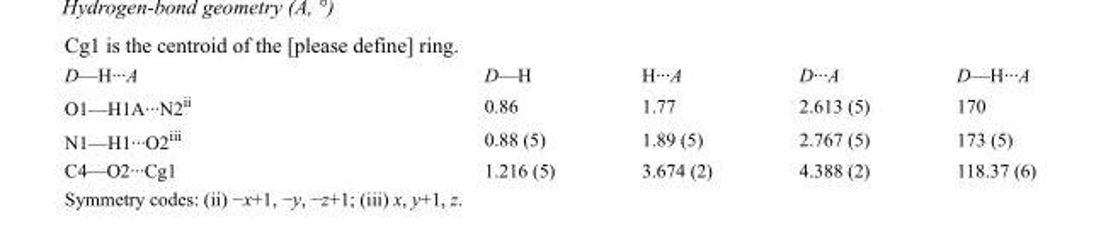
<table><tbody><tr><td>D—H···A</td><td>D—H</td><td>H···A</td><td>D···A</td><td>D—H···A</td></tr><tr><td>O1—H1A···N2<sup>ii</sup></td><td>0.86</td><td>1.77</td><td>2.613 (5)</td><td>170</td></tr><tr><td>N1—H1···O2<sup>iii</sup></td><td>0.88 (5)</td><td>1.89 (5)</td><td>2.767 (5)</td><td>173 (5)</td></tr><tr><td>C4—O2···Cg1</td><td>1.216 (5)</td><td>3.674 (2)</td><td>4.388 (2)</td><td>118.37 (6)</td></tr></tbody></table>